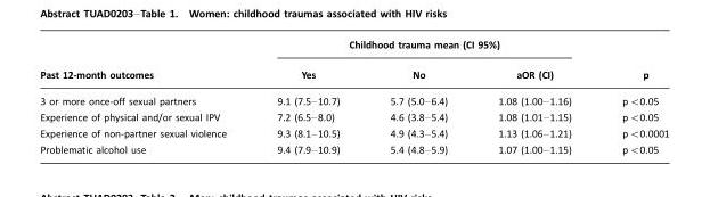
<table><thead><tr><td rowspan="2">Past 12-month outcomes</td><td colspan="3">Childhood trauma mean (CI 95%)</td><td rowspan="2">p</td></tr><tr><td>Yes</td><td>No</td><td>aOR (CI)</td></tr></thead><tbody><tr><td>3 or more once-off sexual partners</td><td>9.1 (7.5–10.7)</td><td>5.7 (5.0–6.4)</td><td>1.08 (1.00–1.16)</td><td>p&lt;0.05</td></tr><tr><td>Experience of physical and/or sexual IPV</td><td>7.2 (6.5–8.0)</td><td>4.6 (3.8–5.4)</td><td>1.08 (1.01–1.15)</td><td>p&lt;0.05</td></tr><tr><td>Experience of non-partner sexual violence</td><td>9.3 (8.1–10.5)</td><td>4.9 (4.3–5.4)</td><td>1.13 (1.06–1.21)</td><td>p&lt;0.0001</td></tr><tr><td>Problematic alcohol use</td><td>9.4 (7.9–10.9)</td><td>5.4 (4.8–5.9)</td><td>1.07 (1.00–1.15)</td><td>p&lt;0.05</td></tr></tbody></table>